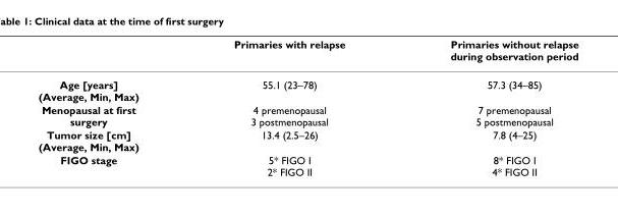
<table><thead><tr><td></td><td>Primaries with relapse</td><td>Primaries without relapse during observation period</td></tr></thead><tbody><tr><td>Age [years] (Average, Min, Max)</td><td>55.1 (23–78)</td><td>57.3 (34–85)</td></tr><tr><td>Menopausal at first surgery</td><td>4 premenopausal 3 postmenopausal</td><td>7 premenopausal 5 postmenopausal</td></tr><tr><td>Tumor size [cm] (Average, Min, Max)</td><td>13.4 (2.5–26)</td><td>7.8 (4–25)</td></tr><tr><td>FIGO stage</td><td>5* FIGO I 2* FIGO II</td><td>8* FIGO I 4* FIGO II</td></tr></tbody></table>